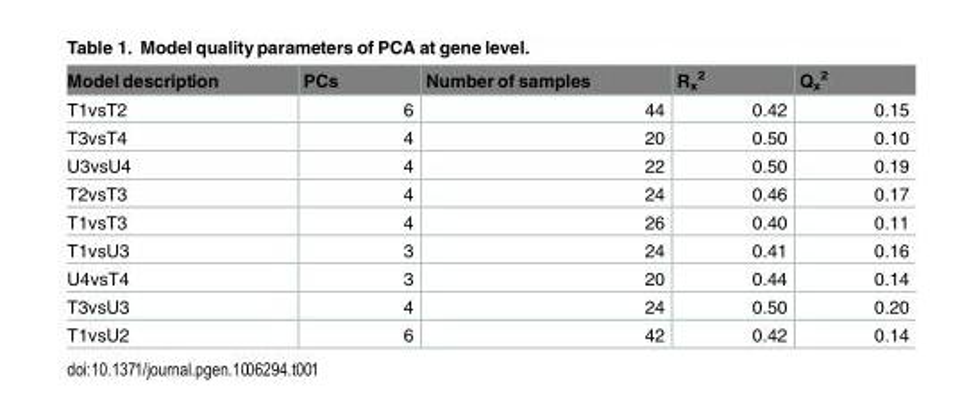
<table><thead><tr><td>Model description</td><td>PCs</td><td>Number of samples</td><td>R<sub>x</sub> <sup>2</sup></td><td>Q<sub>x</sub> <sup>2</sup></td></tr></thead><tbody><tr><td>T1vsT2</td><td>6</td><td>44</td><td>0.42</td><td>0.15</td></tr><tr><td>T3vsT4</td><td>4</td><td>20</td><td>0.50</td><td>0.10</td></tr><tr><td>U3vsU4</td><td>4</td><td>22</td><td>0.50</td><td>0.19</td></tr><tr><td>T2vsT3</td><td>4</td><td>24</td><td>0.46</td><td>0.17</td></tr><tr><td>T1vsT3</td><td>4</td><td>26</td><td>0.40</td><td>0.11</td></tr><tr><td>T1vsU3</td><td>3</td><td>24</td><td>0.41</td><td>0.16</td></tr><tr><td>U4vsT4</td><td>3</td><td>20</td><td>0.44</td><td>0.14</td></tr><tr><td>T3vsU3</td><td>4</td><td>24</td><td>0.50</td><td>0.20</td></tr><tr><td>T1vsU2</td><td>6</td><td>42</td><td>0.42</td><td>0.14</td></tr></tbody></table>